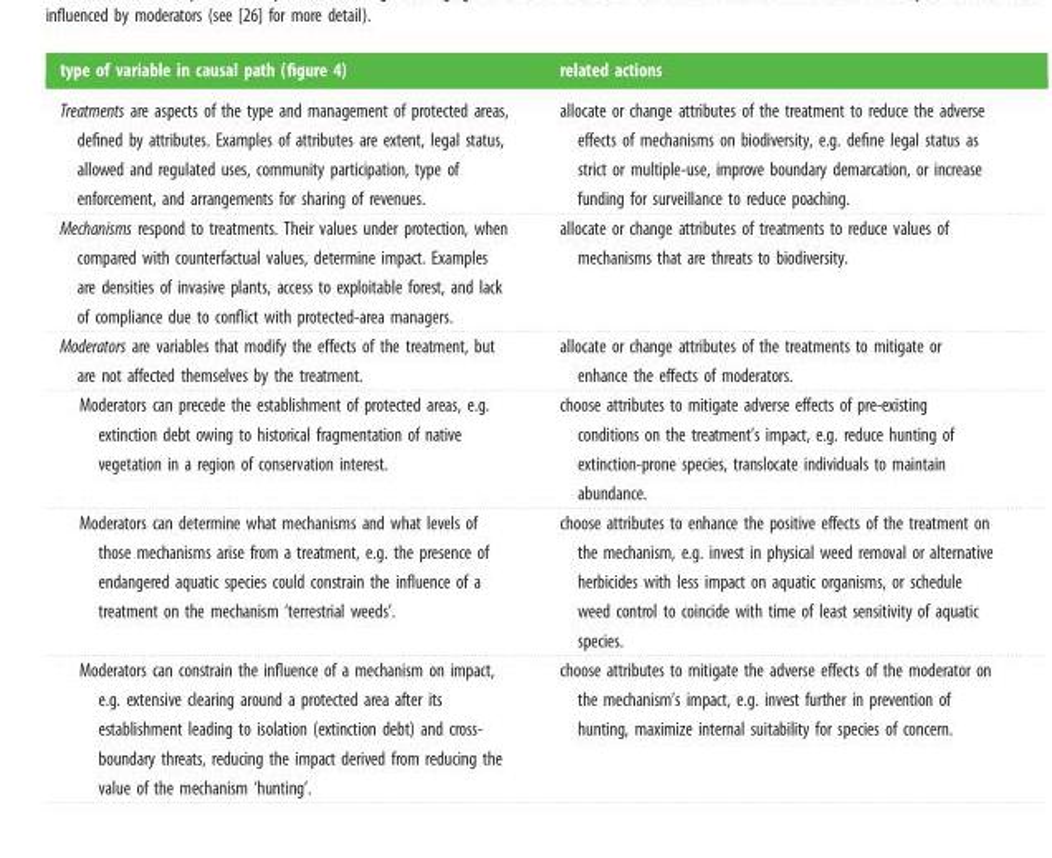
<table><thead><tr><td>type of variable in causal path (figure 4)</td><td>related actions</td></tr></thead><tbody><tr><td>Treatments are aspects of the type and management of protected areas, defined by attributes. Examples of attributes are extent, legal status, allowed and regulated uses, community participation, type of enforcement, and arrangements for sharing of revenues.</td><td>allocate or change attributes of the treatment to reduce the adverse effects of mechanisms on biodiversity, e.g. define legal status as strict or multiple-use, improve boundary demarcation, or increase funding for surveillance to reduce poaching.</td></tr><tr><td>Mechanisms respond to treatments. Their values under protection, when compared with counterfactual values, determine impact. Examples are densities of invasive plants, access to exploitable forest, and lack of compliance due to conflict with protected-area managers.</td><td>allocate or change attributes of treatments to reduce values of mechanisms that are threats to biodiversity.</td></tr><tr><td>Moderators are variables that modify the effects of the treatment, but are not affected themselves by the treatment.</td><td>allocate or change attributes of the treatments to mitigate or enhance the effects of moderators.</td></tr><tr><td>Moderators can precede the establishment of protected areas, e.g. extinction debt owing to historical fragmentation of native vegetation in a region of conservation interest.</td><td>choose attributes to mitigate adverse effects of pre-existing conditions on the treatment’s impact, e.g. reduce hunting of extinction-prone species, translocate individuals to maintain abundance.</td></tr><tr><td>Moderators can determine what mechanisms and what levels of those mechanisms arise from a treatment, e.g. the presence of endangered aquatic species could constrain the influence of a treatment on the mechanism ‘terrestrial weeds’.</td><td>choose attributes to enhance the positive effects of the treatment on the mechanism, e.g. invest in physical weed removal or alternative herbicides with less impact on aquatic organisms, or schedule weed control to coincide with time of least sensitivity of aquatic species.</td></tr><tr><td>Moderators can constrain the influence of a mechanism on impact, e.g. extensive clearing around a protected area after its establishment leading to isolation (extinction debt) and cross- boundary threats, reducing the impact derived from reducing the value of the mechanism ‘hunting’.</td><td>choose attributes to mitigate the adverse effects of the moderator on the mechanism’s impact, e.g. invest further in prevention of hunting, maximize internal suitability for species of concern.</td></tr></tbody></table>